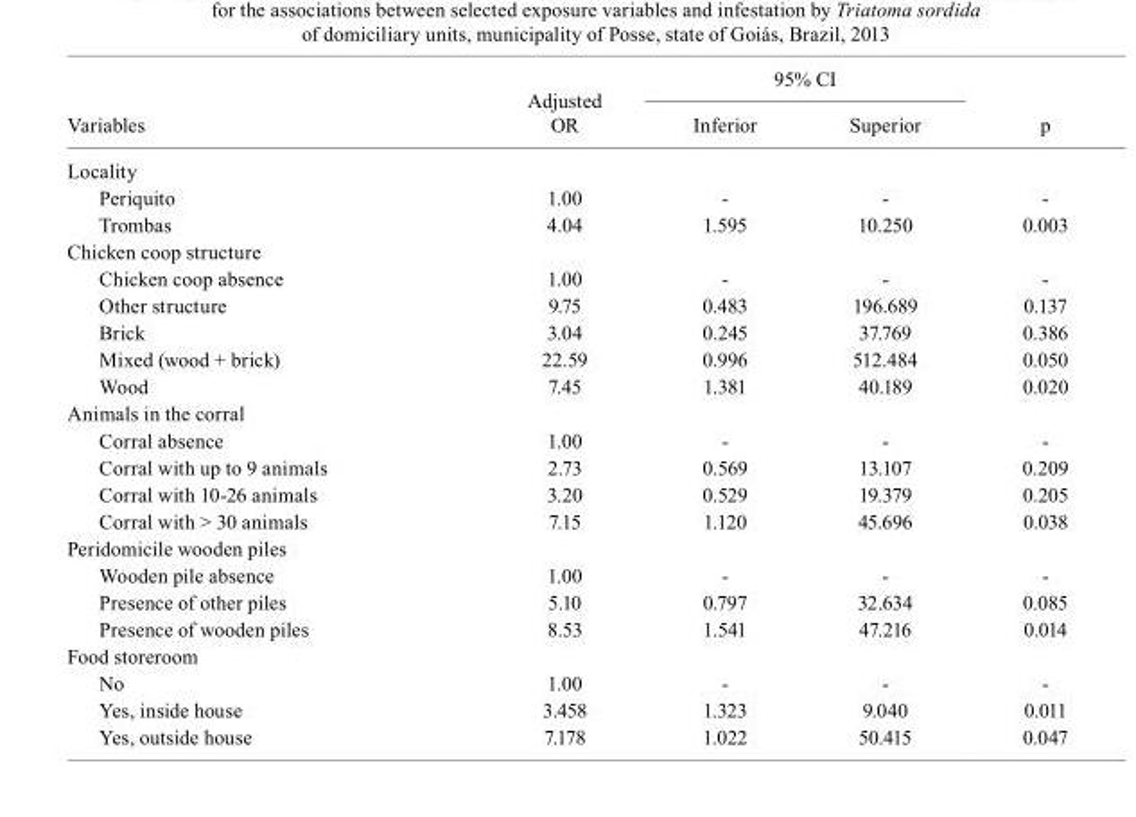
<table><thead><tr><td rowspan="2">Variables</td><td rowspan="2">Adjusted OR</td><td colspan="2">95% CI</td><td rowspan="2">p</td></tr><tr><td>Inferior</td><td>Superior</td></tr></thead><tbody><tr><td colspan="5">Locality</td></tr><tr><td>Periquito</td><td>1.00</td><td>-</td><td>-</td><td>-</td></tr><tr><td>Trombas</td><td>4.04</td><td>1.595</td><td>10.250</td><td>0.003</td></tr><tr><td colspan="5">Chicken coop structure</td></tr><tr><td>Chicken coop absence</td><td>1.00</td><td>-</td><td>-</td><td>-</td></tr><tr><td>Other structure</td><td>9.75</td><td>0.483</td><td>196.689</td><td>0.137</td></tr><tr><td>Brick</td><td>3.04</td><td>0.245</td><td>37.769</td><td>0.386</td></tr><tr><td>Mixed (wood + brick)</td><td>22.59</td><td>0.996</td><td>512.484</td><td>0.050</td></tr><tr><td>Wood</td><td>7.45</td><td>1.381</td><td>40.189</td><td>0.020</td></tr><tr><td colspan="5">Animals in the corral</td></tr><tr><td>Corral absence</td><td>1.00</td><td>-</td><td>-</td><td>-</td></tr><tr><td>Corral with up to 9 animals</td><td>2.73</td><td>0.569</td><td>13.107</td><td>0.209</td></tr><tr><td>Corral with 10-26 animals</td><td>3.20</td><td>0.529</td><td>19.379</td><td>0.205</td></tr><tr><td>Corral with &gt; 30 animals</td><td>7.15</td><td>1.120</td><td>45.696</td><td>0.038</td></tr><tr><td colspan="5">Peridomicile wooden piles</td></tr><tr><td>Wooden pile absence</td><td>1.00</td><td>-</td><td>-</td><td>-</td></tr><tr><td>Presence of other piles</td><td>5.10</td><td>0.797</td><td>32.634</td><td>0.085</td></tr><tr><td>Presence of wooden piles</td><td>8.53</td><td>1.541</td><td>47.216</td><td>0.014</td></tr><tr><td colspan="5">Food storeroom</td></tr><tr><td>No</td><td>1.00</td><td>-</td><td>-</td><td>-</td></tr><tr><td>Yes, inside house</td><td>3.458</td><td>1.323</td><td>9.040</td><td>0.011</td></tr><tr><td>Yes, outside house</td><td>7.178</td><td>1.022</td><td>50.415</td><td>0.047</td></tr></tbody></table>